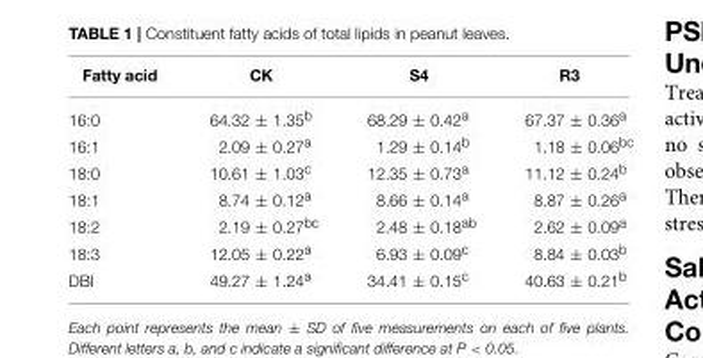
<table><thead><tr><td>Fatty acid</td><td>CK</td><td>S4</td><td>R3</td></tr></thead><tbody><tr><td>16:0</td><td>64.32 ± 1.35<sup>b</sup></td><td>68.29 ± 0.42<sup>a</sup></td><td>67.37 ± 0.36<sup>a</sup></td></tr><tr><td>16:1</td><td>2.09 ± 0.27<sup>a</sup></td><td>1.29 ± 0.14<sup>b</sup></td><td>1.18 ± 0.06<sup>bc</sup></td></tr><tr><td>18:0</td><td>10.61 ± 1.03<sup>c</sup></td><td>12.35 ± 0.73<sup>a</sup></td><td>11.12 ± 0.24<sup>b</sup></td></tr><tr><td>18:1</td><td>8.74 ± 0.12<sup>a</sup></td><td>8.66 ± 0.14<sup>a</sup></td><td>8.87 ± 0.26<sup>a</sup></td></tr><tr><td>18:2</td><td>2.19 ± 0.27<sup>bc</sup></td><td>2.48 ± 0.18<sup>ab</sup></td><td>2.62 ± 0.09<sup>a</sup></td></tr><tr><td>18:3</td><td>12.05 ± 0.22<sup>a</sup></td><td>6.93 ± 0.09<sup>c</sup></td><td>8.84 ± 0.03<sup>b</sup></td></tr><tr><td>DBI</td><td>49.27 ± 1.24<sup>a</sup></td><td>34.41 ± 0.15<sup>c</sup></td><td>40.63 ± 0.21<sup>b</sup></td></tr></tbody></table>